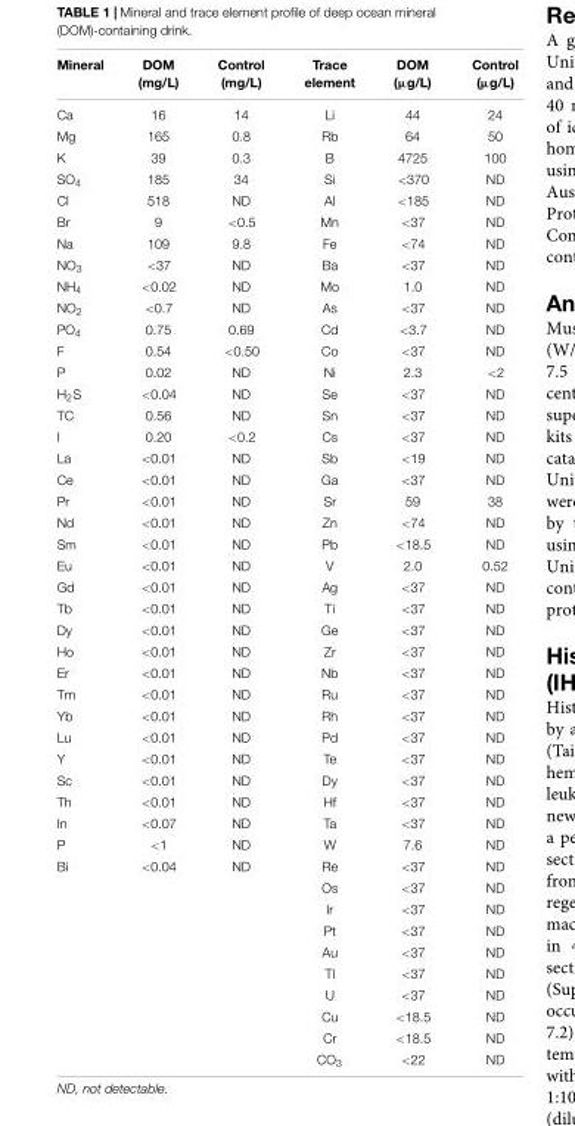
<table><thead><tr><td>Mineral</td><td>DOM (mg/L)</td><td>Control (mg/L)</td><td>Trace element</td><td>DOM (µg/L)</td><td>Control (µg/L)</td></tr></thead><tbody><tr><td>Ca</td><td>16</td><td>14</td><td>Li</td><td>44</td><td>24</td></tr><tr><td>Mg</td><td>165</td><td>0.8</td><td>Rb</td><td>64</td><td>50</td></tr><tr><td>K</td><td>39</td><td>0.3</td><td>B</td><td>4725</td><td>100</td></tr><tr><td>SO<sub>4</sub></td><td>185</td><td>34</td><td>Si</td><td>&lt;370</td><td>ND</td></tr><tr><td>Cl</td><td>518</td><td>ND</td><td>Al</td><td>&lt;185</td><td>ND</td></tr><tr><td>Br</td><td>9</td><td>&lt;0.5</td><td>Mn</td><td>&lt;37</td><td>ND</td></tr><tr><td>Na</td><td>109</td><td>9.8</td><td>Fe</td><td>&lt;74</td><td>ND</td></tr><tr><td>NO<sub>3</sub></td><td>&lt;37</td><td>ND</td><td>Ba</td><td>&lt;37</td><td>ND</td></tr><tr><td>NH<sub>4</sub></td><td>&lt;0.02</td><td>ND</td><td>Mo</td><td>1.0</td><td>ND</td></tr><tr><td>NO<sub>2</sub></td><td>&lt;0.7</td><td>ND</td><td>As</td><td>&lt;37</td><td>ND</td></tr><tr><td>PO<sub>4</sub></td><td>0.75</td><td>0.69</td><td>Cd</td><td>&lt;3.7</td><td>ND</td></tr><tr><td>F</td><td>0.54</td><td>&lt;0.50</td><td>Co</td><td>&lt;37</td><td>ND</td></tr><tr><td>P</td><td>0.02</td><td>ND</td><td>Ni</td><td>2.3</td><td>&lt;2</td></tr><tr><td>H<sub>2</sub>S</td><td>&lt;0.04</td><td>ND</td><td>Se</td><td>&lt;37</td><td>ND</td></tr><tr><td>TC</td><td>0.56</td><td>ND</td><td>Sn</td><td>&lt;37</td><td>ND</td></tr><tr><td>I</td><td>0.20</td><td>&lt;0.2</td><td>Cs</td><td>&lt;37</td><td>ND</td></tr><tr><td>La</td><td>&lt;0.01</td><td>ND</td><td>Sb</td><td>&lt;19</td><td>ND</td></tr><tr><td>Ce</td><td>&lt;0.01</td><td>ND</td><td>Ga</td><td>&lt;37</td><td>ND</td></tr><tr><td>Pr</td><td>&lt;0.01</td><td>ND</td><td>Sr</td><td>59</td><td>38</td></tr><tr><td>Nd</td><td>&lt;0.01</td><td>ND</td><td>Zn</td><td>&lt;74</td><td>ND</td></tr><tr><td>Sm</td><td>&lt;0.01</td><td>ND</td><td>Pb</td><td>&lt;18.5</td><td>ND</td></tr><tr><td>Eu</td><td>&lt;0.01</td><td>ND</td><td>V</td><td>2.0</td><td>0.52</td></tr><tr><td>Gd</td><td>&lt;0.01</td><td>ND</td><td>Ag</td><td>&lt;37</td><td>ND</td></tr><tr><td>Tb</td><td>&lt;0.01</td><td>ND</td><td>Ti</td><td>&lt;37</td><td>ND</td></tr><tr><td>Dy</td><td>&lt;0.01</td><td>ND</td><td>Ge</td><td>&lt;37</td><td>ND</td></tr><tr><td>Ho</td><td>&lt;0.01</td><td>ND</td><td>Zr</td><td>&lt;37</td><td>ND</td></tr><tr><td>Er</td><td>&lt;0.01</td><td>ND</td><td>Nb</td><td>&lt;37</td><td>ND</td></tr><tr><td>Tm</td><td>&lt;0.01</td><td>ND</td><td>Ru</td><td>&lt;37</td><td>ND</td></tr><tr><td>Yb</td><td>&lt;0.01</td><td>ND</td><td>Rh</td><td>&lt;37</td><td>ND</td></tr><tr><td>Lu</td><td>&lt;0.01</td><td>ND</td><td>Pd</td><td>&lt;37</td><td>ND</td></tr><tr><td>Y</td><td>&lt;0.01</td><td>ND</td><td>Te</td><td>&lt;37</td><td>ND</td></tr><tr><td>Sc</td><td>&lt;0.01</td><td>ND</td><td>Dy</td><td>&lt;37</td><td>ND</td></tr><tr><td>Th</td><td>&lt;0.01</td><td>ND</td><td>Hf</td><td>&lt;37</td><td>ND</td></tr><tr><td>In</td><td>&lt;0.07</td><td>ND</td><td>Ta</td><td>&lt;37</td><td>ND</td></tr><tr><td>P</td><td>&lt;1</td><td>ND</td><td>W</td><td>7.6</td><td>ND</td></tr><tr><td rowspan="10">Bi</td><td>&lt;0.04</td><td>ND</td><td>Re</td><td>&lt;37</td><td>ND</td></tr><tr><td></td><td></td><td>Os</td><td>&lt;37</td><td>ND</td></tr><tr><td></td><td></td><td>Ir</td><td>&lt;37</td><td>ND</td></tr><tr><td></td><td></td><td>Pt</td><td>&lt;37</td><td>ND</td></tr><tr><td></td><td></td><td>Au</td><td>&lt;37</td><td>ND</td></tr><tr><td></td><td></td><td>Tl</td><td>&lt;37</td><td>ND</td></tr><tr><td></td><td></td><td>U</td><td>&lt;37</td><td>ND</td></tr><tr><td></td><td></td><td>Cu</td><td>&lt;18.5</td><td>ND</td></tr><tr><td></td><td></td><td>Cr</td><td>&lt;18.5</td><td>ND</td></tr><tr><td></td><td></td><td>CO<sub>3</sub></td><td>&lt;22</td><td>ND</td></tr></tbody></table>